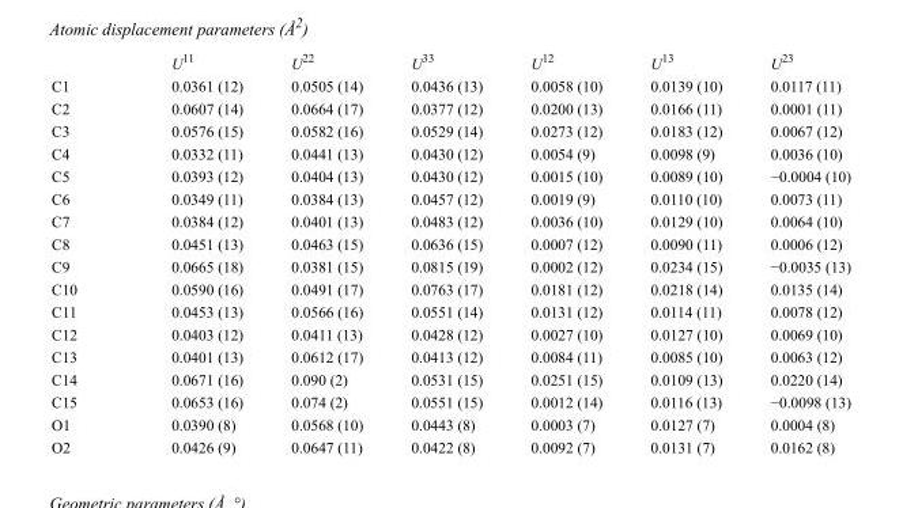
<table><thead><tr><td></td><td>U<sup>11</sup></td><td>U<sup>22</sup></td><td>U<sup>33</sup></td><td>U<sup>12</sup></td><td>U<sup>13</sup></td><td>U<sup>23</sup></td></tr></thead><tbody><tr><td>C1</td><td>0.0361 (12)</td><td>0.0505 (14)</td><td>0.0436 (13)</td><td>0.0058 (10)</td><td>0.0139 (10)</td><td>0.0117 (11)</td></tr><tr><td>C2</td><td>0.0607 (14)</td><td>0.0664 (17)</td><td>0.0377 (12)</td><td>0.0200 (13)</td><td>0.0166 (11)</td><td>0.0001 (11)</td></tr><tr><td>C3</td><td>0.0576 (15)</td><td>0.0582 (16)</td><td>0.0529 (14)</td><td>0.0273 (12)</td><td>0.0183 (12)</td><td>0.0067 (12)</td></tr><tr><td>C4</td><td>0.0332 (11)</td><td>0.0441 (13)</td><td>0.0430 (12)</td><td>0.0054 (9)</td><td>0.0098 (9)</td><td>0.0036 (10)</td></tr><tr><td>C5</td><td>0.0393 (12)</td><td>0.0404 (13)</td><td>0.0430 (12)</td><td>0.0015 (10)</td><td>0.0089 (10)</td><td>−0.0004 (10)</td></tr><tr><td>C6</td><td>0.0349 (11)</td><td>0.0384 (13)</td><td>0.0457 (12)</td><td>0.0019 (9)</td><td>0.0110 (10)</td><td>0.0073 (11)</td></tr><tr><td>C7</td><td>0.0384 (12)</td><td>0.0401 (13)</td><td>0.0483 (12)</td><td>0.0036 (10)</td><td>0.0129 (10)</td><td>0.0064 (10)</td></tr><tr><td>C8</td><td>0.0451 (13)</td><td>0.0463 (15)</td><td>0.0636 (15)</td><td>0.0007 (12)</td><td>0.0090 (11)</td><td>0.0006 (12)</td></tr><tr><td>C9</td><td>0.0665 (18)</td><td>0.0381 (15)</td><td>0.0815 (19)</td><td>0.0002 (12)</td><td>0.0234 (15)</td><td>−0.0035 (13)</td></tr><tr><td>C10</td><td>0.0590 (16)</td><td>0.0491 (17)</td><td>0.0763 (17)</td><td>0.0181 (12)</td><td>0.0218 (14)</td><td>0.0135 (14)</td></tr><tr><td>C11</td><td>0.0453 (13)</td><td>0.0566 (16)</td><td>0.0551 (14)</td><td>0.0131 (12)</td><td>0.0114 (11)</td><td>0.0078 (12)</td></tr><tr><td>C12</td><td>0.0403 (12)</td><td>0.0411 (13)</td><td>0.0428 (12)</td><td>0.0027 (10)</td><td>0.0127 (10)</td><td>0.0069 (10)</td></tr><tr><td>C13</td><td>0.0401 (13)</td><td>0.0612 (17)</td><td>0.0413 (12)</td><td>0.0084 (11)</td><td>0.0085 (10)</td><td>0.0063 (12)</td></tr><tr><td>C14</td><td>0.0671 (16)</td><td>0.090 (2)</td><td>0.0531 (15)</td><td>0.0251 (15)</td><td>0.0109 (13)</td><td>0.0220 (14)</td></tr><tr><td>C15</td><td>0.0653 (16)</td><td>0.074 (2)</td><td>0.0551 (15)</td><td>0.0012 (14)</td><td>0.0116 (13)</td><td>−0.0098 (13)</td></tr><tr><td>O1</td><td>0.0390 (8)</td><td>0.0568 (10)</td><td>0.0443 (8)</td><td>0.0003 (7)</td><td>0.0127 (7)</td><td>0.0004 (8)</td></tr><tr><td>O2</td><td>0.0426 (9)</td><td>0.0647 (11)</td><td>0.0422 (8)</td><td>0.0092 (7)</td><td>0.0131 (7)</td><td>0.0162 (8)</td></tr></tbody></table>